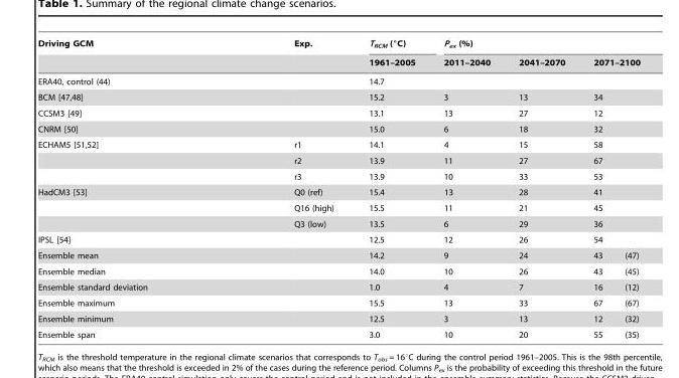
<table><thead><tr><td rowspan="2">Driving GCM</td><td rowspan="2">Exp.</td><td rowspan="2">T<sub>RCM</sub> (°C) 1961–2005</td><td colspan="4">P<sub>ex</sub> (%)</td></tr><tr><td>2011–2040</td><td>2041–2070</td><td colspan="2">2071–2100</td></tr></thead><tbody><tr><td>ERA40, control (44)</td><td></td><td>14.7</td><td></td><td></td><td colspan="2"></td></tr><tr><td>BCM [47,48]</td><td></td><td>15.2</td><td>3</td><td>13</td><td colspan="2">34</td></tr><tr><td>CCSM3 [49]</td><td></td><td>13.1</td><td>13</td><td>27</td><td colspan="2">12</td></tr><tr><td colspan="2">CNRM [50]</td><td>15.0</td><td>6</td><td>18</td><td colspan="2">32</td></tr><tr><td rowspan="3">ECHAM5 [51,52]</td><td>r1</td><td>14.1</td><td>4</td><td>15</td><td colspan="2">58</td></tr><tr><td>r2</td><td>13.9</td><td>11</td><td>27</td><td colspan="2">67</td></tr><tr><td>r3</td><td>13.9</td><td>10</td><td>33</td><td colspan="2">53</td></tr><tr><td rowspan="3">HadCM3 [53]</td><td>Q0 (ref)</td><td>15.4</td><td>13</td><td>28</td><td colspan="2">41</td></tr><tr><td>Q16 (high)</td><td>15.5</td><td>11</td><td>21</td><td colspan="2">45</td></tr><tr><td>Q3 (low)</td><td>13.5</td><td>6</td><td>29</td><td colspan="2">36</td></tr><tr><td>IPSL [54]</td><td></td><td>12.5</td><td>12</td><td>26</td><td colspan="2">54</td></tr><tr><td>Ensemble mean</td><td></td><td>14.2</td><td>9</td><td>24</td><td>43</td><td>(47)</td></tr><tr><td>Ensemble median</td><td></td><td>14.0</td><td>10</td><td>26</td><td>43</td><td>(45)</td></tr><tr><td>Ensemble standard deviation</td><td></td><td>1.0</td><td>4</td><td>7</td><td>16</td><td>(12)</td></tr><tr><td>Ensemble maximum</td><td></td><td>15.5</td><td>13</td><td>33</td><td>67</td><td>(67)</td></tr><tr><td>Ensemble minimum</td><td></td><td>12.5</td><td>3</td><td>13</td><td>12</td><td>(32)</td></tr><tr><td>Ensemble span</td><td></td><td>3.0</td><td>10</td><td>20</td><td>55</td><td>(35)</td></tr></tbody></table>